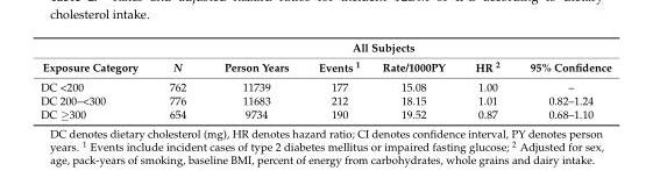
<table><thead><tr><td rowspan="2">Exposure Category</td><td colspan="6">All Subjects</td></tr><tr><td>N</td><td>Person Years</td><td>Events <sup>1</sup></td><td>Rate/1000PY</td><td>HR <sup>2</sup></td><td>95% Confidence</td></tr></thead><tbody><tr><td>DC &lt;200</td><td>762</td><td>11739</td><td>177</td><td>15.08</td><td>1.00</td><td>–</td></tr><tr><td>DC 200–&lt;300</td><td>776</td><td>11683</td><td>212</td><td>18.15</td><td>1.01</td><td>0.82–1.24</td></tr><tr><td>DC ≥300</td><td>654</td><td>9734</td><td>190</td><td>19.52</td><td>0.87</td><td>0.68–1.10</td></tr></tbody></table>